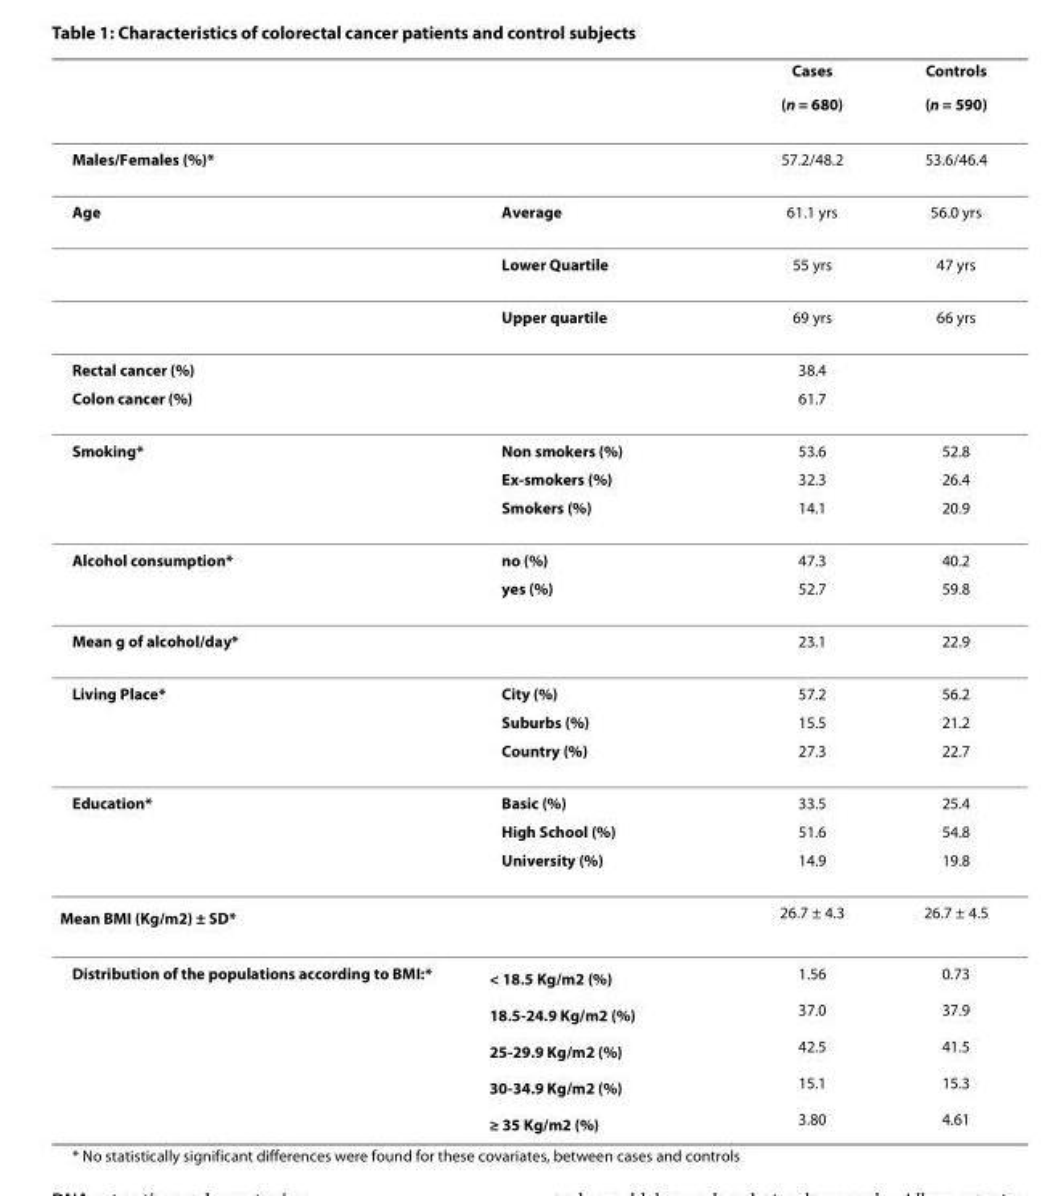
<table><thead><tr><td rowspan="2"></td><td rowspan="2"></td><td rowspan="2">Cases (n = 680)</td><td rowspan="2">Controls (n = 590)</td></tr><tr></tr></thead><tbody><tr><td>Males/Females (%)*</td><td></td><td>57.2/48.2</td><td>53.6/46.4</td></tr><tr><td rowspan="3">Age</td><td>Average</td><td>61.1 yrs</td><td>56.0 yrs</td></tr><tr><td>Lower Quartile</td><td>55 yrs</td><td>47 yrs</td></tr><tr><td>Upper quartile</td><td>69 yrs</td><td>66 yrs</td></tr><tr><td>Rectal cancer (%)</td><td></td><td>38.4</td><td></td></tr><tr><td>Colon cancer (%)</td><td></td><td>61.7</td><td></td></tr><tr><td rowspan="3">Smoking*</td><td>Non smokers (%)</td><td>53.6</td><td>52.8</td></tr><tr><td>Ex-smokers (%)</td><td>32.3</td><td>26.4</td></tr><tr><td>Smokers (%)</td><td>14.1</td><td>20.9</td></tr><tr><td rowspan="2">Alcohol consumption*</td><td>no (%)</td><td>47.3</td><td>40.2</td></tr><tr><td>yes (%)</td><td>52.7</td><td>59.8</td></tr><tr><td>Mean g of alcohol/day*</td><td></td><td>23.1</td><td>22.9</td></tr><tr><td rowspan="3">Living Place*</td><td>City (%)</td><td>57.2</td><td>56.2</td></tr><tr><td>Suburbs (%)</td><td>15.5</td><td>21.2</td></tr><tr><td>Country (%)</td><td>27.3</td><td>22.7</td></tr><tr><td rowspan="3">Education*</td><td>Basic (%)</td><td>33.5</td><td>25.4</td></tr><tr><td>High School (%)</td><td>51.6</td><td>54.8</td></tr><tr><td>University (%)</td><td>14.9</td><td>19.8</td></tr><tr><td>Mean BMI (Kg/m<sup>2</sup>) ± SD*</td><td></td><td>26.7 ± 4.3</td><td>26.7 ± 4.5</td></tr><tr><td rowspan="5">Distribution of the populations according to BMI:*</td><td>&lt; 18.5 Kg/m<sup>2</sup> (%)</td><td>1.56</td><td>0.73</td></tr><tr><td>18.5-24.9 Kg/m<sup>2</sup> (%)</td><td>37.0</td><td>37.9</td></tr><tr><td>25-29.9 Kg/m<sup>2</sup> (%)</td><td>42.5</td><td>41.5</td></tr><tr><td>30-34.9 Kg/m<sup>2</sup> (%)</td><td>15.1</td><td>15.3</td></tr><tr><td>≥ 35 Kg/m<sup>2</sup> (%)</td><td>3.80</td><td>4.61</td></tr></tbody></table>